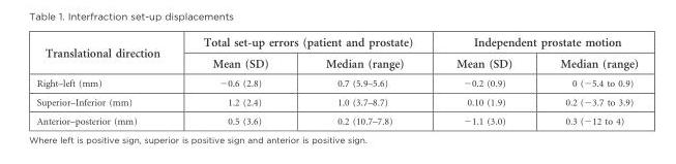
<table><thead><tr><td rowspan="2">Translational direction</td><td colspan="2">Total set-up errors (patient and prostate)</td><td colspan="2">Independent prostate motion</td></tr><tr><td>Mean (SD)</td><td>Median (range)</td><td>Mean (SD)</td><td>Median (range)</td></tr></thead><tbody><tr><td>Right–left (mm)</td><td>−0.6 (2.8)</td><td>0.7 (5.9–5.6)</td><td>−0.2 (0.9)</td><td>0 (−5.4 to 0.9)</td></tr><tr><td>Superior–Inferior (mm)</td><td>1.2 (2.4)</td><td>1.0 (3.7–8.7)</td><td>0.10 (1.9)</td><td>0.2 (−3.7 to 3.9)</td></tr><tr><td>Anterior–posterior (mm)</td><td>0.5 (3.6)</td><td>0.2 (10.7–7.8)</td><td>−1.1 (3.0)</td><td>0.3 (−12 to 4)</td></tr></tbody></table>